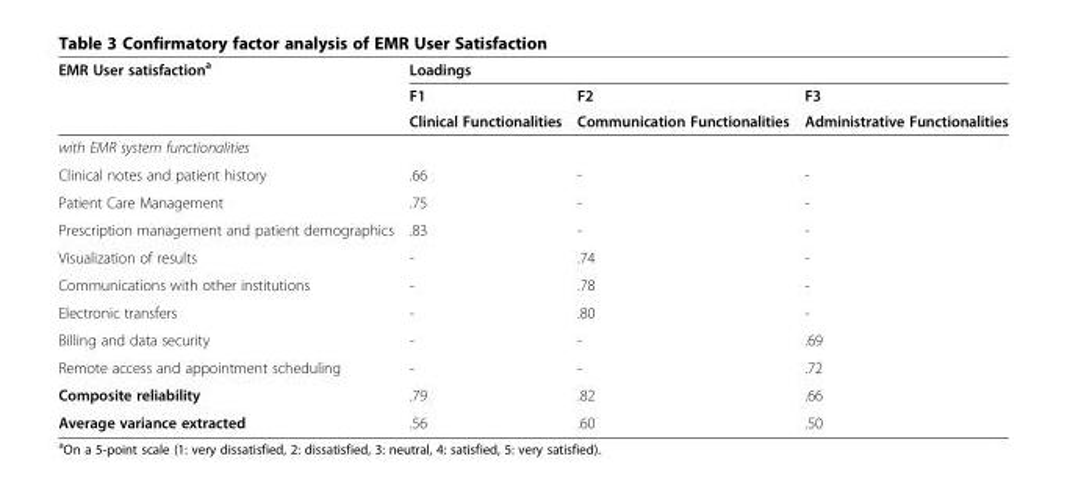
<table><thead><tr><td rowspan="3">EMR User satisfaction<sup>a</sup></td><td colspan="3">Loadings</td></tr><tr><td rowspan="2">F1 Clinical Functionalities</td><td rowspan="2">F2 Communication Functionalities</td><td rowspan="2">F3 Administrative Functionalities</td></tr><tr></tr></thead><tbody><tr><td colspan="4">with EMR system functionalities</td></tr><tr><td>Clinical notes and patient history</td><td>.66</td><td>-</td><td>-</td></tr><tr><td>Patient Care Management</td><td>.75</td><td>-</td><td>-</td></tr><tr><td>Prescription management and patient demographics</td><td>.83</td><td>-</td><td>-</td></tr><tr><td>Visualization of results</td><td>-</td><td>.74</td><td>-</td></tr><tr><td>Communications with other institutions</td><td>-</td><td>.78</td><td>-</td></tr><tr><td>Electronic transfers</td><td>-</td><td>.80</td><td>-</td></tr><tr><td>Billing and data security</td><td>-</td><td>-</td><td>.69</td></tr><tr><td>Remote access and appointment scheduling</td><td>-</td><td>-</td><td>.72</td></tr><tr><td>Composite reliability</td><td>.79</td><td>.82</td><td>.66</td></tr><tr><td>Average variance extracted</td><td>.56</td><td>.60</td><td>.50</td></tr></tbody></table>